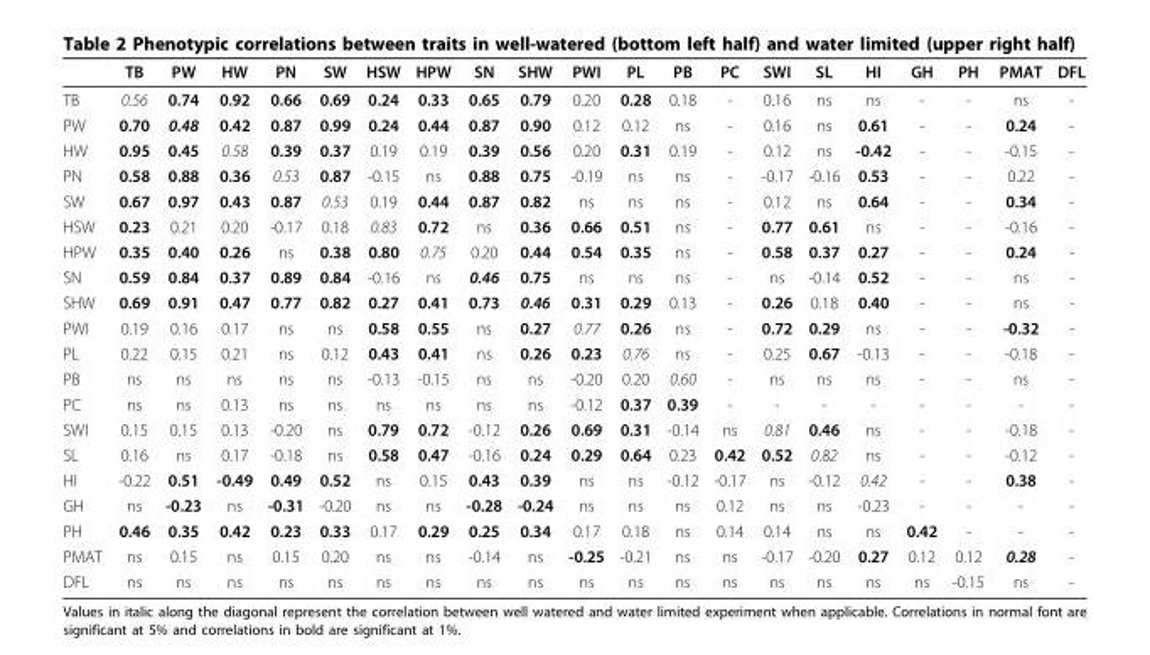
<table><thead><tr><td></td><td>TB</td><td>PW</td><td>HW</td><td>PN</td><td>SW</td><td>HSW</td><td>HPW</td><td>SN</td><td>SHW</td><td>PWI</td><td>PL</td><td>PB</td><td>PC</td><td>SWI</td><td>SL</td><td>HI</td><td>GH</td><td>PH</td><td>PMAT</td><td>DFL</td></tr></thead><tbody><tr><td>TB</td><td>0.56</td><td>0.74</td><td>0.92</td><td>0.66</td><td>0.69</td><td>0.24</td><td>0.33</td><td>0.65</td><td>0.79</td><td>0.20</td><td>0.28</td><td>0.18</td><td>-</td><td>0.16</td><td>ns</td><td>ns</td><td>-</td><td>-</td><td>ns</td><td>-</td></tr><tr><td>PW</td><td>0.70</td><td>0.48</td><td>0.42</td><td>0.87</td><td>0.99</td><td>0.24</td><td>0.44</td><td>0.87</td><td>0.90</td><td>0.12</td><td>0.12</td><td>ns</td><td>-</td><td>0.16</td><td>ns</td><td>0.61</td><td>-</td><td>-</td><td>0.24</td><td>-</td></tr><tr><td>HW</td><td>0.95</td><td>0.45</td><td>0.58</td><td>0.39</td><td>0.37</td><td>0.19</td><td>0.19</td><td>0.39</td><td>0.56</td><td>0.20</td><td>0.31</td><td>0.19</td><td>-</td><td>0.12</td><td>ns</td><td>-0.42</td><td>-</td><td>-</td><td>-0.15</td><td>-</td></tr><tr><td>PN</td><td>0.58</td><td>0.88</td><td>0.36</td><td>0.53</td><td>0.87</td><td>-0.15</td><td>ns</td><td>0.88</td><td>0.75</td><td>-0.19</td><td>ns</td><td>ns</td><td>-</td><td>-0.17</td><td>-0.16</td><td>0.53</td><td>-</td><td>-</td><td>0.22</td><td>-</td></tr><tr><td>SW</td><td>0.67</td><td>0.97</td><td>0.43</td><td>0.87</td><td>0.53</td><td>0.19</td><td>0.44</td><td>0.87</td><td>0.82</td><td>ns</td><td>ns</td><td>ns</td><td>-</td><td>0.12</td><td>ns</td><td>0.64</td><td>-</td><td>-</td><td>0.34</td><td>-</td></tr><tr><td>HSW</td><td>0.23</td><td>0.21</td><td>0.20</td><td>-0.17</td><td>0.18</td><td>0.83</td><td>0.72</td><td>ns</td><td>0.36</td><td>0.66</td><td>0.51</td><td>ns</td><td>-</td><td>0.77</td><td>0.61</td><td>ns</td><td>-</td><td>-</td><td>-0.16</td><td>-</td></tr><tr><td>HPW</td><td>0.35</td><td>0.40</td><td>0.26</td><td>ns</td><td>0.38</td><td>0.80</td><td>0.75</td><td>0.20</td><td>0.44</td><td>0.54</td><td>0.35</td><td>ns</td><td>-</td><td>0.58</td><td>0.37</td><td>0.27</td><td>-</td><td>-</td><td>0.24</td><td>-</td></tr><tr><td>SN</td><td>0.59</td><td>0.84</td><td>0.37</td><td>0.89</td><td>0.84</td><td>-0.16</td><td>ns</td><td>0.46</td><td>0.75</td><td>ns</td><td>ns</td><td>ns</td><td>-</td><td>ns</td><td>-0.14</td><td>0.52</td><td>-</td><td>-</td><td>ns</td><td>-</td></tr><tr><td>SHW</td><td>0.69</td><td>0.91</td><td>0.47</td><td>0.77</td><td>0.82</td><td>0.27</td><td>0.41</td><td>0.73</td><td>0.46</td><td>0.31</td><td>0.29</td><td>0.13</td><td>-</td><td>0.26</td><td>0.18</td><td>0.40</td><td>-</td><td>-</td><td>ns</td><td>-</td></tr><tr><td>PWI</td><td>0.19</td><td>0.16</td><td>0.17</td><td>ns</td><td>ns</td><td>0.58</td><td>0.55</td><td>ns</td><td>0.27</td><td>0.77</td><td>0.26</td><td>ns</td><td>-</td><td>0.72</td><td>0.29</td><td>ns</td><td>-</td><td>-</td><td>-0.32</td><td>-</td></tr><tr><td>PL</td><td>0.22</td><td>0.15</td><td>0.21</td><td>ns</td><td>0.12</td><td>0.43</td><td>0.41</td><td>ns</td><td>0.26</td><td>0.23</td><td>0.76</td><td>ns</td><td>-</td><td>0.25</td><td>0.67</td><td>-0.13</td><td>-</td><td>-</td><td>-0.18</td><td>-</td></tr><tr><td>PB</td><td>ns</td><td>ns</td><td>ns</td><td>ns</td><td>ns</td><td>-0.13</td><td>-0.15</td><td>ns</td><td>ns</td><td>-0.20</td><td>0.20</td><td>0.60</td><td>-</td><td>ns</td><td>ns</td><td>ns</td><td>-</td><td>-</td><td>ns</td><td>-</td></tr><tr><td>PC</td><td>ns</td><td>ns</td><td>0.13</td><td>ns</td><td>ns</td><td>ns</td><td>ns</td><td>ns</td><td>ns</td><td>-0.12</td><td>0.37</td><td>0.39</td><td>-</td><td>-</td><td>-</td><td>-</td><td>-</td><td>-</td><td>-</td><td>-</td></tr><tr><td>SWI</td><td>0.15</td><td>0.15</td><td>0.13</td><td>-0.20</td><td>ns</td><td>0.79</td><td>0.72</td><td>-0.12</td><td>0.26</td><td>0.69</td><td>0.31</td><td>-0.14</td><td>ns</td><td>0.81</td><td>0.46</td><td>ns</td><td>-</td><td>-</td><td>-0.18</td><td>-</td></tr><tr><td>SL</td><td>0.16</td><td>ns</td><td>0.17</td><td>-0.18</td><td>ns</td><td>0.58</td><td>0.47</td><td>-0.16</td><td>0.24</td><td>0.29</td><td>0.64</td><td>0.23</td><td>0.42</td><td>0.52</td><td>0.82</td><td>ns</td><td>-</td><td>-</td><td>-0.12</td><td>-</td></tr><tr><td>HI</td><td>-0.22</td><td>0.51</td><td>-0.49</td><td>0.49</td><td>0.52</td><td>ns</td><td>0.15</td><td>0.43</td><td>0.39</td><td>ns</td><td>ns</td><td>-0.12</td><td>-0.17</td><td>ns</td><td>-0.12</td><td>0.42</td><td>-</td><td>-</td><td>0.38</td><td>-</td></tr><tr><td>GH</td><td>ns</td><td>-0.23</td><td>ns</td><td>-0.31</td><td>-0.20</td><td>ns</td><td>ns</td><td>-0.28</td><td>-0.24</td><td>ns</td><td>ns</td><td>ns</td><td>0.12</td><td>ns</td><td>ns</td><td>-0.23</td><td>-</td><td>-</td><td>-</td><td>-</td></tr><tr><td>PH</td><td>0.46</td><td>0.35</td><td>0.42</td><td>0.23</td><td>0.33</td><td>0.17</td><td>0.29</td><td>0.25</td><td>0.34</td><td>0.17</td><td>0.18</td><td>ns</td><td>0.14</td><td>0.14</td><td>ns</td><td>ns</td><td>0.42</td><td>-</td><td>-</td><td>-</td></tr><tr><td>PMAT</td><td>ns</td><td>0.15</td><td>ns</td><td>0.15</td><td>0.20</td><td>ns</td><td>ns</td><td>-0.14</td><td>ns</td><td>-0.25</td><td>-0.21</td><td>ns</td><td>ns</td><td>-0.17</td><td>-0.20</td><td>0.27</td><td>0.12</td><td>0.12</td><td>0.28</td><td>-</td></tr><tr><td>DFL</td><td>ns</td><td>ns</td><td>ns</td><td>ns</td><td>ns</td><td>ns</td><td>ns</td><td>ns</td><td>ns</td><td>ns</td><td>ns</td><td>ns</td><td>ns</td><td>ns</td><td>ns</td><td>ns</td><td>ns</td><td>-0.15</td><td>ns</td><td>-</td></tr></tbody></table>